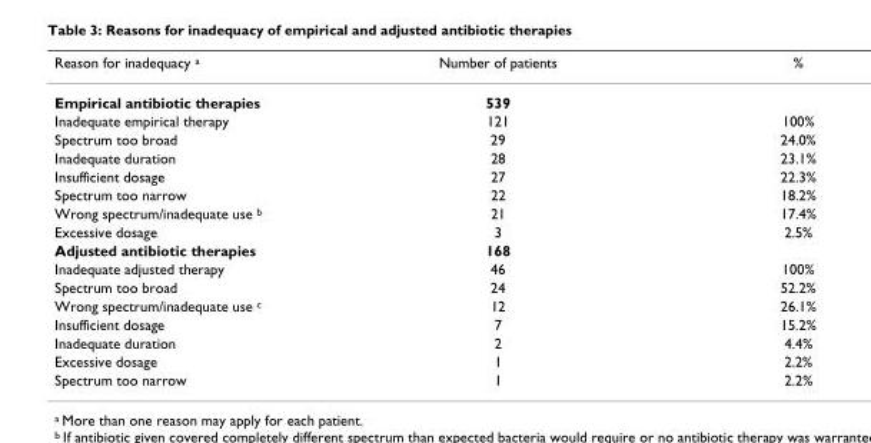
<table><thead><tr><td>Reason for inadequacy <sup>a</sup></td><td>Number of patients</td><td>%</td></tr></thead><tbody><tr><td>Empirical antibiotic therapies</td><td>539</td><td></td></tr><tr><td>Inadequate empirical therapy</td><td>121</td><td>100%</td></tr><tr><td>Spectrum too broad</td><td>29</td><td>24.0%</td></tr><tr><td>Inadequate duration</td><td>28</td><td>23.1%</td></tr><tr><td>Insufficient dosage</td><td>27</td><td>22.3%</td></tr><tr><td>Spectrum too narrow</td><td>22</td><td>18.2%</td></tr><tr><td>Wrong spectrum/inadequate use <sup>b</sup></td><td>21</td><td>17.4%</td></tr><tr><td>Excessive dosage</td><td>3</td><td>2.5%</td></tr><tr><td>Adjusted antibiotic therapies</td><td>168</td><td></td></tr><tr><td>Inadequate adjusted therapy</td><td>46</td><td>100%</td></tr><tr><td>Spectrum too broad</td><td>24</td><td>52.2%</td></tr><tr><td>Wrong spectrum/inadequate use <sup>c</sup></td><td>12</td><td>26.1%</td></tr><tr><td>Insufficient dosage</td><td>7</td><td>15.2%</td></tr><tr><td>Inadequate duration</td><td>2</td><td>4.4%</td></tr><tr><td>Excessive dosage</td><td>1</td><td>2.2%</td></tr><tr><td>Spectrum too narrow</td><td>1</td><td>2.2%</td></tr></tbody></table>